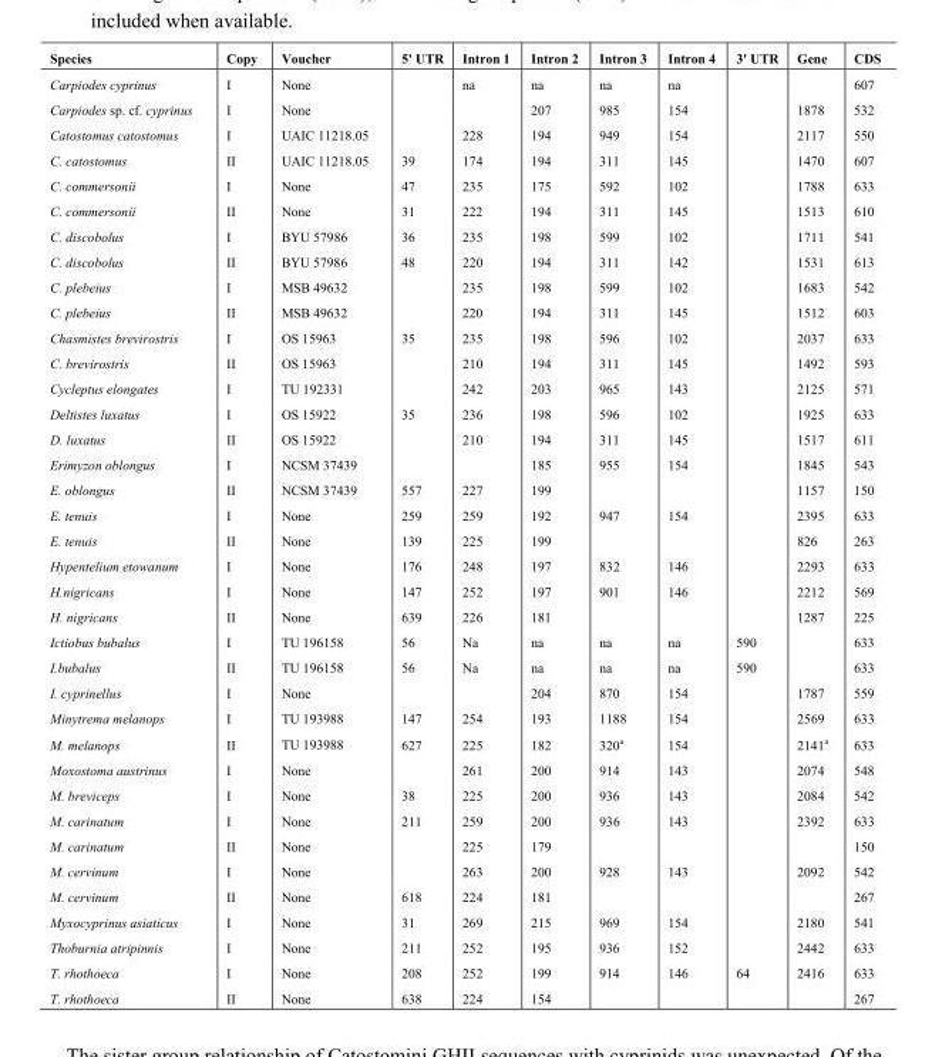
<table><thead><tr><td>Species</td><td>Copy</td><td>Voucher</td><td>5&#x27; UTR</td><td>Intron 1</td><td>Intron 2</td><td>Intron 3</td><td>Intron 4</td><td>3&#x27; UTR</td><td>Gene</td><td>CDS</td></tr></thead><tbody><tr><td>Carpiodes cyprinus</td><td>I</td><td>None</td><td></td><td>na</td><td>na</td><td>na</td><td>na</td><td></td><td></td><td>607</td></tr><tr><td>Carpiodes sp. cf. cyprinus</td><td>I</td><td>None</td><td></td><td></td><td>207</td><td>985</td><td>154</td><td></td><td>1878</td><td>532</td></tr><tr><td>Catostomus catostomus</td><td>I</td><td>UAIC 11218.05</td><td></td><td>228</td><td>194</td><td>949</td><td>154</td><td></td><td>2117</td><td>550</td></tr><tr><td>C. catostomus</td><td>II</td><td>UAIC 11218.05</td><td>39</td><td>174</td><td>194</td><td>311</td><td>145</td><td></td><td>1470</td><td>607</td></tr><tr><td>C. commersonii</td><td>I</td><td>None</td><td>47</td><td>235</td><td>175</td><td>592</td><td>102</td><td></td><td>1788</td><td>633</td></tr><tr><td>C. commersonii</td><td>II</td><td>None</td><td>31</td><td>222</td><td>194</td><td>311</td><td>145</td><td></td><td>1513</td><td>610</td></tr><tr><td>C. discobolus</td><td>I</td><td>BYU 57986</td><td>36</td><td>235</td><td>198</td><td>599</td><td>102</td><td></td><td>1711</td><td>541</td></tr><tr><td>C. discobolus</td><td>II</td><td>BYU 57986</td><td>48</td><td>220</td><td>194</td><td>311</td><td>142</td><td></td><td>1531</td><td>613</td></tr><tr><td>C. plebeius</td><td>I</td><td>MSB 49632</td><td></td><td>235</td><td>198</td><td>599</td><td>102</td><td></td><td>1683</td><td>542</td></tr><tr><td>C. plebeius</td><td>II</td><td>MSB 49632</td><td></td><td>220</td><td>194</td><td>311</td><td>145</td><td></td><td>1512</td><td>603</td></tr><tr><td>Chasmistes brevirostris</td><td>I</td><td>OS 15963</td><td>35</td><td>235</td><td>198</td><td>596</td><td>102</td><td></td><td>2037</td><td>633</td></tr><tr><td>C. brevirostris</td><td>II</td><td>OS 15963</td><td></td><td>210</td><td>194</td><td>311</td><td>145</td><td></td><td>1492</td><td>593</td></tr><tr><td>Cycleptus elongates</td><td>I</td><td>TU 192331</td><td></td><td>242</td><td>203</td><td>965</td><td>143</td><td></td><td>2125</td><td>571</td></tr><tr><td>Deltistes luxatus</td><td>I</td><td>OS 15922</td><td>35</td><td>236</td><td>198</td><td>596</td><td>102</td><td></td><td>1925</td><td>633</td></tr><tr><td>D. luxatus</td><td>II</td><td>OS 15922</td><td></td><td>210</td><td>194</td><td>311</td><td>145</td><td></td><td>1517</td><td>611</td></tr><tr><td>Erimyzon oblongus</td><td>I</td><td>NCSM 37439</td><td></td><td></td><td>185</td><td>955</td><td>154</td><td></td><td>1845</td><td>543</td></tr><tr><td>E. oblongus</td><td>II</td><td>NCSM 37439</td><td>557</td><td>227</td><td>199</td><td></td><td></td><td></td><td>1157</td><td>150</td></tr><tr><td>E. tenuis</td><td>I</td><td>None</td><td>259</td><td>259</td><td>192</td><td>947</td><td>154</td><td></td><td>2395</td><td>633</td></tr><tr><td>E. tenuis</td><td>II</td><td>None</td><td>139</td><td>225</td><td>199</td><td></td><td></td><td></td><td>826</td><td>263</td></tr><tr><td>Hypentelium etowanum</td><td>I</td><td>None</td><td>176</td><td>248</td><td>197</td><td>832</td><td>146</td><td></td><td>2293</td><td>633</td></tr><tr><td>H.nigricans</td><td>I</td><td>None</td><td>147</td><td>252</td><td>197</td><td>901</td><td>146</td><td></td><td>2212</td><td>569</td></tr><tr><td>H. nigricans</td><td>II</td><td>None</td><td>639</td><td>226</td><td>181</td><td></td><td></td><td></td><td>1287</td><td>225</td></tr><tr><td>Ictiobus bubalus</td><td>I</td><td>TU 196158</td><td>56</td><td>Na</td><td>na</td><td>na</td><td>na</td><td>590</td><td></td><td>633</td></tr><tr><td>I.bubalus</td><td>II</td><td>TU 196158</td><td>56</td><td>Na</td><td>na</td><td>na</td><td>na</td><td>590</td><td></td><td>633</td></tr><tr><td>I. cyprinellus</td><td>I</td><td>None</td><td></td><td></td><td>204</td><td>870</td><td>154</td><td></td><td>1787</td><td>559</td></tr><tr><td>Minytrema melanops</td><td>I</td><td>TU 193988</td><td>147</td><td>254</td><td>193</td><td>1188</td><td>154</td><td></td><td>2569</td><td>633</td></tr><tr><td>M. melanops</td><td>II</td><td>TU 193988</td><td>627</td><td>225</td><td>182</td><td>320<sup>a</sup></td><td>154</td><td></td><td>2141<sup>a</sup></td><td>633</td></tr><tr><td>Moxostoma austrinus</td><td>I</td><td>None</td><td></td><td>261</td><td>200</td><td>914</td><td>143</td><td></td><td>2074</td><td>548</td></tr><tr><td>M. breviceps</td><td>I</td><td>None</td><td>38</td><td>225</td><td>200</td><td>936</td><td>143</td><td></td><td>2084</td><td>542</td></tr><tr><td>M. carinatum</td><td>I</td><td>None</td><td>211</td><td>259</td><td>200</td><td>936</td><td>143</td><td></td><td>2392</td><td>633</td></tr><tr><td>M. carinatum</td><td>II</td><td>None</td><td></td><td>225</td><td>179</td><td></td><td></td><td></td><td></td><td>150</td></tr><tr><td>M. cervinum</td><td>I</td><td>None</td><td></td><td>263</td><td>200</td><td>928</td><td>143</td><td></td><td>2092</td><td>542</td></tr><tr><td>M. cervinum</td><td>II</td><td>None</td><td>618</td><td>224</td><td>181</td><td></td><td></td><td></td><td></td><td>267</td></tr><tr><td>Myxocyprinus asiaticus</td><td>I</td><td>None</td><td>31</td><td>269</td><td>215</td><td>969</td><td>154</td><td></td><td>2180</td><td>541</td></tr><tr><td>Thoburnia atripinnis</td><td>I</td><td>None</td><td>211</td><td>252</td><td>195</td><td>936</td><td>152</td><td></td><td>2442</td><td>633</td></tr><tr><td>T. rhothoeca</td><td>I</td><td>None</td><td>208</td><td>252</td><td>199</td><td>914</td><td>146</td><td>64</td><td>2416</td><td>633</td></tr><tr><td>T. rhothoeca</td><td>II</td><td>None</td><td>638</td><td>224</td><td>154</td><td></td><td></td><td></td><td></td><td>267</td></tr></tbody></table>